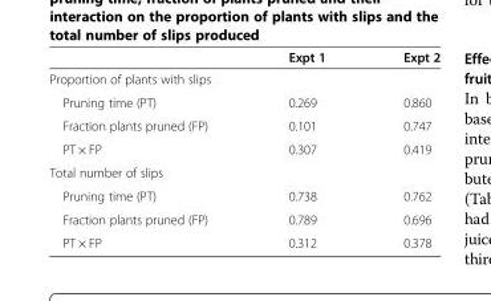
<table><thead><tr><td></td><td>Expt 1</td><td>Expt 2</td></tr></thead><tbody><tr><td colspan="3">Proportion of plants with slips</td></tr><tr><td>Pruning time (PT)</td><td>0.269</td><td>0.860</td></tr><tr><td>Fraction plants pruned (FP)</td><td>0.101</td><td>0.747</td></tr><tr><td>PT × FP</td><td>0.307</td><td>0.419</td></tr><tr><td colspan="3">Total number of slips</td></tr><tr><td>Pruning time (PT)</td><td>0.738</td><td>0.762</td></tr><tr><td>Fraction plants pruned (FP)</td><td>0.789</td><td>0.696</td></tr><tr><td>PT × FP</td><td>0.312</td><td>0.378</td></tr></tbody></table>